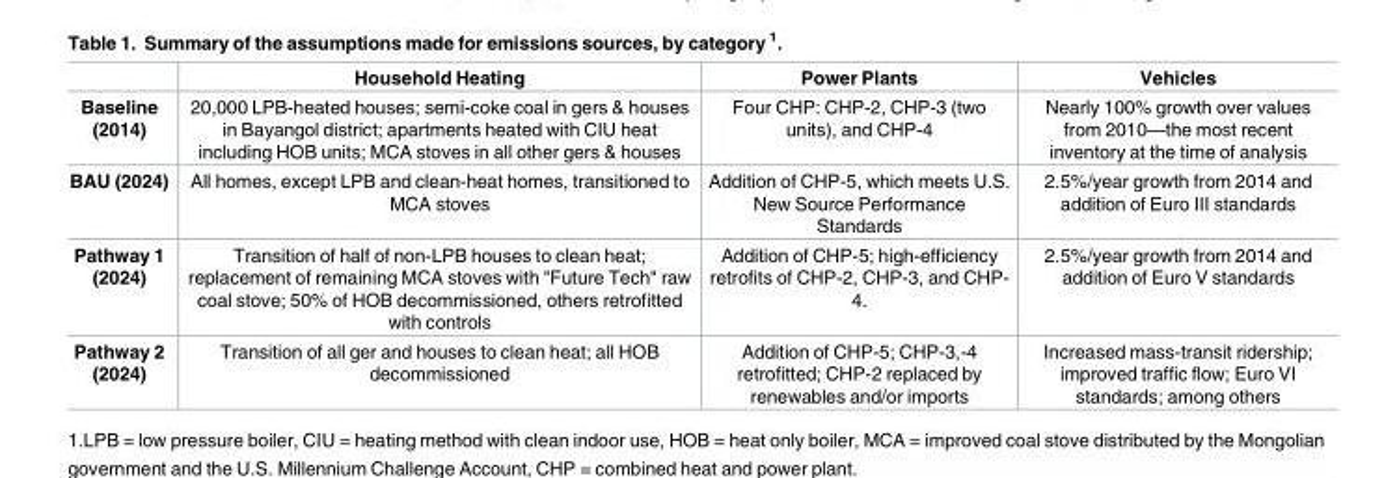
<table><thead><tr><td></td><td>Household Heating</td><td>Power Plants</td><td>Vehicles</td></tr></thead><tbody><tr><td>Baseline (2014)</td><td>20,000 LPB-heated houses; semi-coke coal in gers &amp; houses in Bayangol district; apartments heated with CIU heat including HOB units; MCA stoves in all other gers &amp; houses</td><td>Four CHP: CHP-2, CHP-3 (two units), and CHP-4</td><td>Nearly 100% growth over values from 2010—the most recent inventory at the time of analysis</td></tr><tr><td>BAU (2024)</td><td>All homes, except LPB and clean-heat homes, transitioned to MCA stoves</td><td>Addition of CHP-5, which meets U.S. New Source Performance Standards</td><td>2.5%/year growth from 2014 and addition of Euro III standards</td></tr><tr><td>Pathway 1 (2024)</td><td>Transition of half of non-LPB houses to clean heat; replacement of remaining MCA stoves with &quot;Future Tech&quot; raw coal stove; 50% of HOB decommissioned, others retrofitted with controls</td><td>Addition of CHP-5; high-efficiency retrofits of CHP-2, CHP-3, and CHP- 4.</td><td>2.5%/year growth from 2014 and addition of Euro V standards</td></tr><tr><td>Pathway 2 (2024)</td><td>Transition of all ger and houses to clean heat; all HOB decommissioned</td><td>Addition of CHP-5; CHP-3,-4 retrofitted; CHP-2 replaced by renewables and/or imports</td><td>Increased mass-transit ridership; improved traffic flow; Euro VI standards; among others</td></tr></tbody></table>